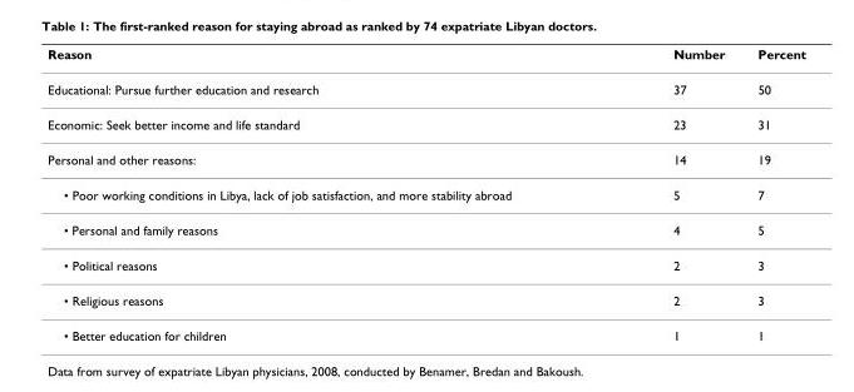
<table><thead><tr><td>Reason</td><td>Number</td><td>Percent</td></tr></thead><tbody><tr><td>Educational: Pursue further education and research</td><td>37</td><td>50</td></tr><tr><td>Economic: Seek better income and life standard</td><td>23</td><td>31</td></tr><tr><td>Personal and other reasons:</td><td>14</td><td>19</td></tr><tr><td>• Poor working conditions in Libya, lack of job satisfaction, and more stability abroad</td><td>5</td><td>7</td></tr><tr><td>• Personal and family reasons</td><td>4</td><td>5</td></tr><tr><td>• Political reasons</td><td>2</td><td>3</td></tr><tr><td>• Religious reasons</td><td>2</td><td>3</td></tr><tr><td>• Better education for children</td><td>1</td><td>1</td></tr></tbody></table>